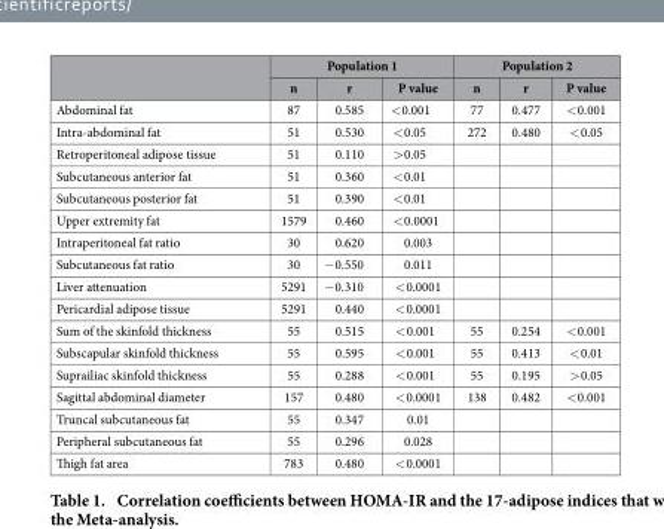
<table><thead><tr><td rowspan="2"></td><td colspan="3">Population 1</td><td colspan="3">Population 2</td></tr><tr><td>n</td><td>r</td><td>P value</td><td>n</td><td>r</td><td>P value</td></tr></thead><tbody><tr><td>Abdominal fat</td><td>87</td><td>0.585</td><td>&lt; 0.001</td><td>77</td><td>0.477</td><td>&lt; 0.001</td></tr><tr><td>Intra-abdominal fat</td><td>51</td><td>0.530</td><td>&lt; 0.05</td><td>272</td><td>0.480</td><td>&lt; 0.05</td></tr><tr><td>Retroperitoneal adipose tissue</td><td>51</td><td>0.110</td><td>&gt; 0.05</td><td></td><td></td><td></td></tr><tr><td>Subcutaneous anterior fat</td><td>51</td><td>0.360</td><td>&lt; 0.01</td><td></td><td></td><td></td></tr><tr><td>Subcutaneous posterior fat</td><td>51</td><td>0.390</td><td>&lt; 0.01</td><td></td><td></td><td></td></tr><tr><td>Upper extremity fat</td><td>1579</td><td>0.460</td><td>&lt; 0.0001</td><td></td><td></td><td></td></tr><tr><td>Intraperitoneal fat ratio</td><td>30</td><td>0.620</td><td>0.003</td><td></td><td></td><td></td></tr><tr><td>Subcutaneous fat ratio</td><td>30</td><td>− 0.550</td><td>0.011</td><td></td><td></td><td></td></tr><tr><td>Liver attenuation</td><td>5291</td><td>− 0.310</td><td>&lt; 0.0001</td><td></td><td></td><td></td></tr><tr><td>Pericardial adipose tissue</td><td>5291</td><td>0.440</td><td>&lt; 0.0001</td><td></td><td></td><td></td></tr><tr><td>Sum of the skinfold thickness</td><td>55</td><td>0.515</td><td>&lt; 0.001</td><td>55</td><td>0.254</td><td>&lt; 0.001</td></tr><tr><td>Subscapular skinfold thickness</td><td>55</td><td>0.595</td><td>&lt; 0.001</td><td>55</td><td>0.413</td><td>&lt; 0.01</td></tr><tr><td>Suprailiac skinfold thickness</td><td>55</td><td>0.288</td><td>&lt; 0.001</td><td>55</td><td>0.195</td><td>&gt; 0.05</td></tr><tr><td>Sagittal abdominal diameter</td><td>157</td><td>0.480</td><td>&lt; 0.0001</td><td>138</td><td>0.482</td><td>&lt; 0.001</td></tr><tr><td>Truncal subcutaneous fat</td><td>55</td><td>0.347</td><td>0.01</td><td></td><td></td><td></td></tr><tr><td>Peripheral subcutaneous fat</td><td>55</td><td>0.296</td><td>0.028</td><td></td><td></td><td></td></tr><tr><td>Thigh fat area</td><td>783</td><td>0.480</td><td>&lt; 0.0001</td><td></td><td></td><td></td></tr></tbody></table>